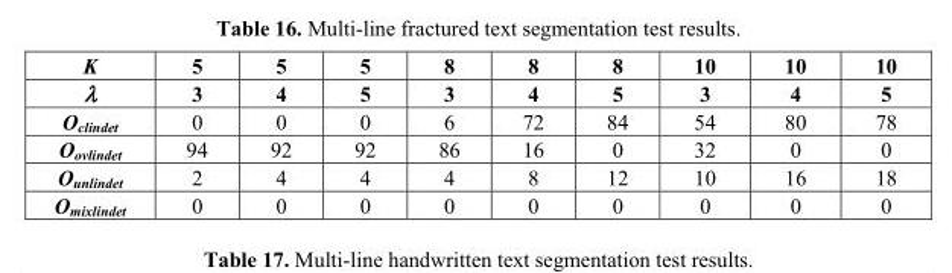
<table><thead><tr><td rowspan="2">K λ</td><td rowspan="2">5 3</td><td rowspan="2">5 4</td><td rowspan="2">5 5</td><td rowspan="2">8 3</td><td rowspan="2">8 4</td><td rowspan="2">8 5</td><td rowspan="2">10 3</td><td rowspan="2">10 4</td><td rowspan="2">10 5</td></tr><tr></tr></thead><tbody><tr><td>O<sub>clindet</sub></td><td>0</td><td>0</td><td>0</td><td>6</td><td>72</td><td>84</td><td>54</td><td>80</td><td>78</td></tr><tr><td>O<sub>ovlindet</sub></td><td>94</td><td>92</td><td>92</td><td>86</td><td>16</td><td>0</td><td>32</td><td>0</td><td>0</td></tr><tr><td>O<sub>unlindet</sub></td><td>2</td><td>4</td><td>4</td><td>4</td><td>8</td><td>12</td><td>10</td><td>16</td><td>18</td></tr><tr><td>O<sub>mixlindet</sub></td><td>0</td><td>0</td><td>0</td><td>0</td><td>0</td><td>0</td><td>0</td><td>0</td><td>0</td></tr></tbody></table>